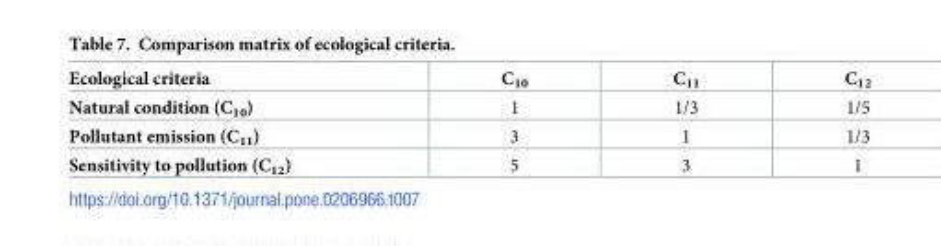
<table><thead><tr><td>Ecological criteria</td><td>C<sub>10</sub></td><td>C<sub>11</sub></td><td>C<sub>12</sub></td></tr></thead><tbody><tr><td>Natural condition (C<sub>10</sub>)</td><td>1</td><td>1/3</td><td>1/5</td></tr><tr><td>Pollutant emission (C<sub>11</sub>)</td><td>3</td><td>1</td><td>1/3</td></tr><tr><td>Sensitivity to pollution (C<sub>12</sub>)</td><td>5</td><td>3</td><td>1</td></tr></tbody></table>